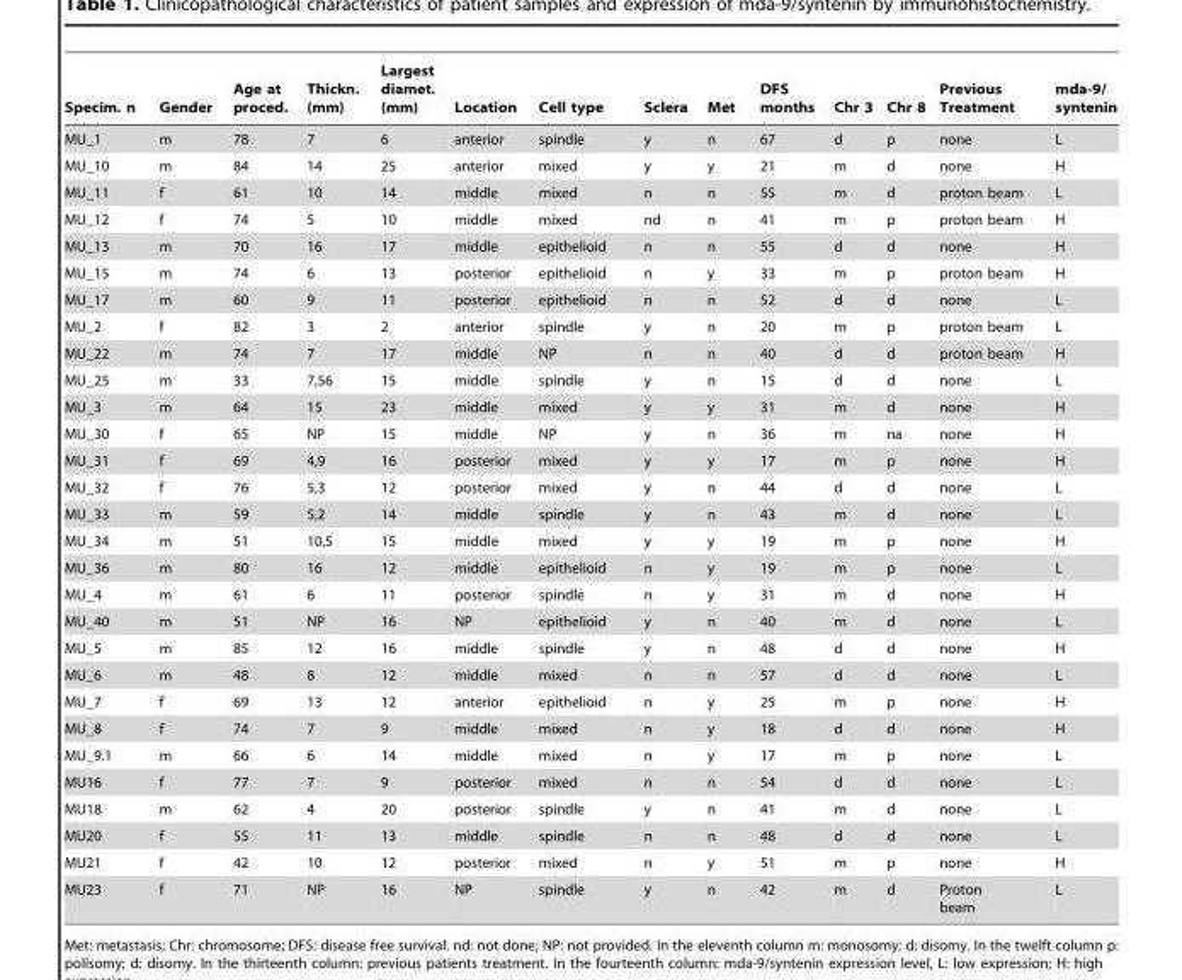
<table><thead><tr><td>Specim. n</td><td>Gender</td><td>Age at proced.</td><td>Thickn. (mm)</td><td>Largest diamet. (mm)</td><td>Location</td><td>Cell type</td><td>Sclera</td><td>Met</td><td>DFS months</td><td>Chr 3</td><td>Chr 8</td><td>Previous Treatment</td><td>mda-9/ syntenin</td></tr></thead><tbody><tr><td>MU_1</td><td>m</td><td>78</td><td>7</td><td>6</td><td>anterior</td><td>spindle</td><td>y</td><td>n</td><td>67</td><td>d</td><td>p</td><td>none</td><td>L</td></tr><tr><td>MU_10</td><td>m</td><td>84</td><td>14</td><td>25</td><td>anterior</td><td>mixed</td><td>y</td><td>y</td><td>21</td><td>m</td><td>d</td><td>none</td><td>H</td></tr><tr><td>MU_11</td><td>f</td><td>61</td><td>10</td><td>14</td><td>middle</td><td>mixed</td><td>n</td><td>n</td><td>55</td><td>m</td><td>d</td><td>proton beam</td><td>L</td></tr><tr><td>MU_12</td><td>f</td><td>74</td><td>5</td><td>10</td><td>middle</td><td>mixed</td><td>nd</td><td>n</td><td>41</td><td>m</td><td>p</td><td>proton beam</td><td>H</td></tr><tr><td>MU_13</td><td>m</td><td>70</td><td>16</td><td>17</td><td>middle</td><td>epithelioid</td><td>n</td><td>n</td><td>55</td><td>d</td><td>d</td><td>none</td><td>H</td></tr><tr><td>MU_15</td><td>m</td><td>74</td><td>6</td><td>13</td><td>posterior</td><td>epithelioid</td><td>n</td><td>y</td><td>33</td><td>m</td><td>p</td><td>proton beam</td><td>H</td></tr><tr><td>MU_17</td><td>m</td><td>60</td><td>9</td><td>11</td><td>posterior</td><td>epithelioid</td><td>n</td><td>n</td><td>52</td><td>d</td><td>d</td><td>none</td><td>L</td></tr><tr><td>MU_2</td><td>f</td><td>82</td><td>3</td><td>2</td><td>anterior</td><td>spindle</td><td>y</td><td>n</td><td>20</td><td>m</td><td>p</td><td>proton beam</td><td>L</td></tr><tr><td>MU_22</td><td>m</td><td>74</td><td>7</td><td>17</td><td>middle</td><td>NP</td><td>n</td><td>n</td><td>40</td><td>d</td><td>d</td><td>proton beam</td><td>H</td></tr><tr><td>MU_25</td><td>m</td><td>33</td><td>7,56</td><td>15</td><td>middle</td><td>spindle</td><td>y</td><td>n</td><td>15</td><td>d</td><td>d</td><td>none</td><td>L</td></tr><tr><td>MU_3</td><td>m</td><td>64</td><td>15</td><td>23</td><td>middle</td><td>mixed</td><td>y</td><td>y</td><td>31</td><td>m</td><td>d</td><td>none</td><td>H</td></tr><tr><td>MU_30</td><td>f</td><td>65</td><td>NP</td><td>15</td><td>middle</td><td>NP</td><td>y</td><td>n</td><td>36</td><td>m</td><td>na</td><td>none</td><td>H</td></tr><tr><td>MU_31</td><td>f</td><td>69</td><td>4,9</td><td>16</td><td>posterior</td><td>mixed</td><td>y</td><td>y</td><td>17</td><td>m</td><td>p</td><td>none</td><td>H</td></tr><tr><td>MU_32</td><td>f</td><td>76</td><td>5,3</td><td>12</td><td>posterior</td><td>mixed</td><td>y</td><td>n</td><td>44</td><td>d</td><td>d</td><td>none</td><td>L</td></tr><tr><td>MU_33</td><td>m</td><td>59</td><td>5,2</td><td>14</td><td>middle</td><td>spindle</td><td>y</td><td>n</td><td>43</td><td>m</td><td>d</td><td>none</td><td>L</td></tr><tr><td>MU_34</td><td>m</td><td>51</td><td>10,5</td><td>15</td><td>middle</td><td>mixed</td><td>y</td><td>y</td><td>19</td><td>m</td><td>p</td><td>none</td><td>H</td></tr><tr><td>MU_36</td><td>m</td><td>80</td><td>16</td><td>12</td><td>middle</td><td>epithelioid</td><td>n</td><td>y</td><td>19</td><td>m</td><td>p</td><td>none</td><td>L</td></tr><tr><td>MU_4</td><td>m</td><td>61</td><td>6</td><td>11</td><td>posterior</td><td>spindle</td><td>n</td><td>y</td><td>31</td><td>m</td><td>d</td><td>none</td><td>H</td></tr><tr><td>MU_40</td><td>m</td><td>51</td><td>NP</td><td>16</td><td>NP</td><td>epithelioid</td><td>y</td><td>n</td><td>40</td><td>m</td><td>d</td><td>none</td><td>L</td></tr><tr><td>MU_5</td><td>m</td><td>85</td><td>12</td><td>16</td><td>middle</td><td>spindle</td><td>y</td><td>n</td><td>48</td><td>d</td><td>d</td><td>none</td><td>H</td></tr><tr><td>MU_6</td><td>m</td><td>48</td><td>8</td><td>12</td><td>middle</td><td>mixed</td><td>n</td><td>n</td><td>57</td><td>d</td><td>d</td><td>none</td><td>L</td></tr><tr><td>MU_7</td><td>f</td><td>69</td><td>13</td><td>12</td><td>anterior</td><td>epithelioid</td><td>n</td><td>y</td><td>25</td><td>m</td><td>p</td><td>none</td><td>H</td></tr><tr><td>MU_8</td><td>f</td><td>74</td><td>7</td><td>9</td><td>middle</td><td>mixed</td><td>n</td><td>y</td><td>18</td><td>d</td><td>d</td><td>none</td><td>H</td></tr><tr><td>MU_9.1</td><td>m</td><td>66</td><td>6</td><td>14</td><td>middle</td><td>mixed</td><td>n</td><td>y</td><td>17</td><td>m</td><td>p</td><td>none</td><td>L</td></tr><tr><td>MU16</td><td>f</td><td>77</td><td>7</td><td>9</td><td>posterior</td><td>mixed</td><td>n</td><td>n</td><td>54</td><td>d</td><td>d</td><td>none</td><td>L</td></tr><tr><td>MU18</td><td>m</td><td>62</td><td>4</td><td>20</td><td>posterior</td><td>spindle</td><td>y</td><td>n</td><td>41</td><td>m</td><td>d</td><td>none</td><td>L</td></tr><tr><td>MU20</td><td>f</td><td>55</td><td>11</td><td>13</td><td>middle</td><td>spindle</td><td>n</td><td>n</td><td>48</td><td>d</td><td>d</td><td>none</td><td>L</td></tr><tr><td>MU21</td><td>f</td><td>42</td><td>10</td><td>12</td><td>posterior</td><td>mixed</td><td>n</td><td>y</td><td>51</td><td>m</td><td>p</td><td>none</td><td>H</td></tr><tr><td>MU23</td><td>f</td><td>71</td><td>NP</td><td>16</td><td>NP</td><td>spindle</td><td>y</td><td>n</td><td>42</td><td>m</td><td>d</td><td>Proton beam</td><td>L</td></tr></tbody></table>